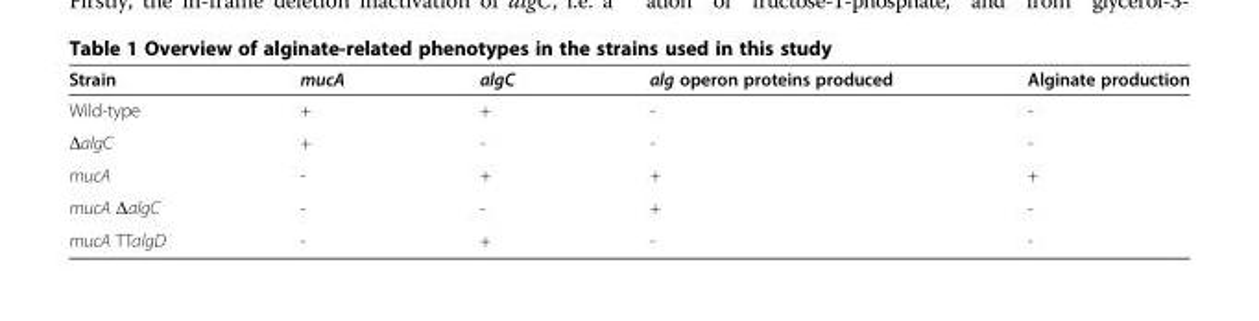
<table><thead><tr><td>Strain</td><td>mucA</td><td>algC</td><td>alg operon proteins produced</td><td>Alginate production</td></tr></thead><tbody><tr><td>Wild-type</td><td>+</td><td>+</td><td>-</td><td>-</td></tr><tr><td>ΔalgC</td><td>+</td><td>-</td><td>-</td><td>-</td></tr><tr><td>mucA</td><td>-</td><td>+</td><td>+</td><td>+</td></tr><tr><td>mucA ΔalgC</td><td>-</td><td>-</td><td>+</td><td>-</td></tr><tr><td>mucA TTalgD</td><td>-</td><td>+</td><td>-</td><td>-</td></tr></tbody></table>